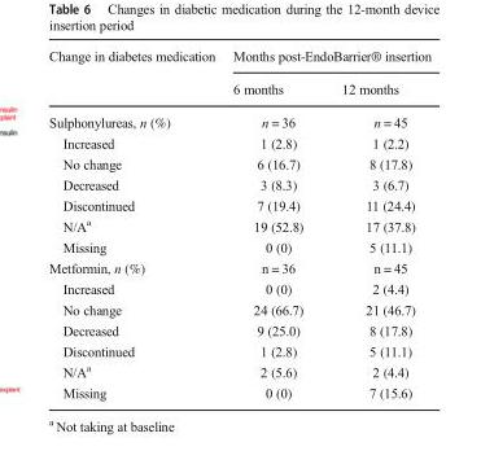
<table><thead><tr><td rowspan="2">Change in diabetes medication</td><td colspan="2">Months post-EndoBarrier® insertion</td></tr><tr><td>6 months</td><td>12 months</td></tr></thead><tbody><tr><td>Sulphonylureas, n (%)</td><td>n = 36</td><td>n = 45</td></tr><tr><td>Increased</td><td>1 (2.8)</td><td>1 (2.2)</td></tr><tr><td>No change</td><td>6 (16.7)</td><td>8 (17.8)</td></tr><tr><td>Decreased</td><td>3 (8.3)</td><td>3 (6.7)</td></tr><tr><td>Discontinued</td><td>7 (19.4)</td><td>11 (24.4)</td></tr><tr><td>N/A<sup>a</sup></td><td>19 (52.8)</td><td>17 (37.8)</td></tr><tr><td>Missing</td><td>0 (0)</td><td>5 (11.1)</td></tr><tr><td>Metformin, n (%)</td><td>n = 36</td><td>n = 45</td></tr><tr><td>Increased</td><td>0 (0)</td><td>2 (4.4)</td></tr><tr><td>No change</td><td>24 (66.7)</td><td>21 (46.7)</td></tr><tr><td>Decreased</td><td>9 (25.0)</td><td>8 (17.8)</td></tr><tr><td>Discontinued</td><td>1 (2.8)</td><td>5 (11.1)</td></tr><tr><td>N/A<sup>a</sup></td><td>2 (5.6)</td><td>2 (4.4)</td></tr><tr><td>Missing</td><td>0 (0)</td><td>7 (15.6)</td></tr></tbody></table>